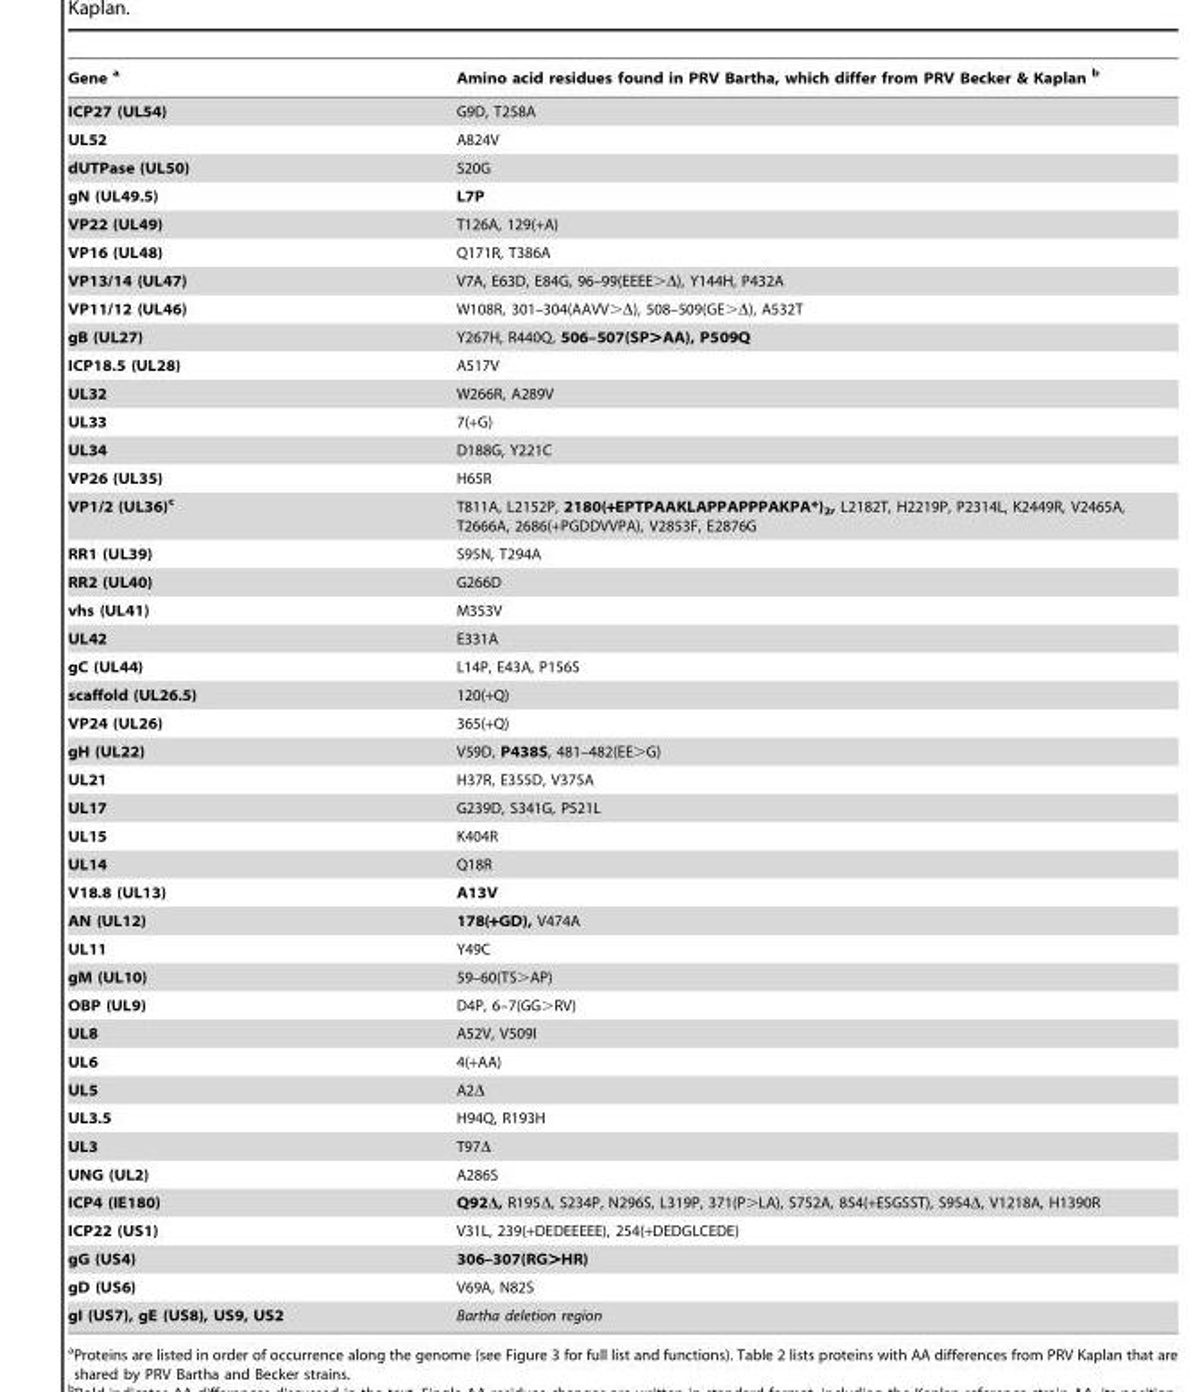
<table><thead><tr><td>Gene a</td><td>Amino acid residues found in PRV Bartha, which differ from PRV Becker &amp; Kaplan b</td></tr></thead><tbody><tr><td>ICP27 (UL54)</td><td>G9D, T258A</td></tr><tr><td>UL52</td><td>A824V</td></tr><tr><td>dUTPase (UL50)</td><td>S20G</td></tr><tr><td>gN (UL49.5)</td><td>L7P</td></tr><tr><td>VP22 (UL49)</td><td>T126A, 129(+A)</td></tr><tr><td>VP16 (UL48)</td><td>Q171R, T386A</td></tr><tr><td>VP13/14 (UL47)</td><td>V7A, E63D, E84G, 96–99(EEEE&gt;Δ), Y144H, P432A</td></tr><tr><td>VP11/12 (UL46)</td><td>W108R, 301–304(AAVV&gt;Δ), 508–509(GE&gt;Δ), A532T</td></tr><tr><td>gB (UL27)</td><td>Y267H, R440Q, 506–507(SP&gt;AA), P509Q</td></tr><tr><td>ICP18.5 (UL28)</td><td>A517V</td></tr><tr><td>UL32</td><td>W266R, A289V</td></tr><tr><td>UL33</td><td>7(+G)</td></tr><tr><td>UL34</td><td>D188G, Y221C</td></tr><tr><td>VP26 (UL35)</td><td>H65R</td></tr><tr><td>VP1/2 (UL36)c</td><td>T811A, L2152P, 2180(+EPTPAAKLAPPAPPPAKPA*)<sub>2</sub>, L2182T, H2219P, P2314L, K2449R, V2465A, T2666A, 2686(+PGDDVVPA), V2853F, E2876G</td></tr><tr><td>RR1 (UL39)</td><td>S95N, T294A</td></tr><tr><td>RR2 (UL40)</td><td>G266D</td></tr><tr><td>vhs (UL41)</td><td>M353V</td></tr><tr><td>UL42</td><td>E331A</td></tr><tr><td>gC (UL44)</td><td>L14P, E43A, P156S</td></tr><tr><td>scaffold (UL26.5)</td><td>120(+Q)</td></tr><tr><td>VP24 (UL26)</td><td>365(+Q)</td></tr><tr><td>gH (UL22)</td><td>V59D, P438S, 481–482(EE&gt;G)</td></tr><tr><td>UL21</td><td>H37R, E355D, V375A</td></tr><tr><td>UL17</td><td>G239D, S341G, P521L</td></tr><tr><td>UL15</td><td>K404R</td></tr><tr><td>UL14</td><td>Q18R</td></tr><tr><td>V18.8 (UL13)</td><td>A13V</td></tr><tr><td>AN (UL12)</td><td>178(+GD), V474A</td></tr><tr><td>UL11</td><td>Y49C</td></tr><tr><td>gM (UL10)</td><td>59–60(TS&gt;AP)</td></tr><tr><td>OBP (UL9)</td><td>D4P, 6–7(GG&gt;RV)</td></tr><tr><td>UL8</td><td>A52V, V509I</td></tr><tr><td>UL6</td><td>4(+AA)</td></tr><tr><td>UL5</td><td>A2Δ</td></tr><tr><td>UL3.5</td><td>H94Q, R193H</td></tr><tr><td>UL3</td><td>T97Δ</td></tr><tr><td>UNG (UL2)</td><td>A286S</td></tr><tr><td>ICP4 (IE180)</td><td>Q92Δ, R195Δ, S234P, N296S, L319P, 371(P&gt;LA), S752A, 854(+ESGSST), S954Δ, V1218A, H1390R</td></tr><tr><td>ICP22 (US1)</td><td>V31L, 239(+DEDEEEEE), 254(+DEDGLCEDE)</td></tr><tr><td>gG (US4)</td><td>306–307(RG&gt;HR)</td></tr><tr><td>gD (US6)</td><td>V69A, N82S</td></tr><tr><td>gI (US7), gE (US8), US9, US2</td><td>Bartha deletion region</td></tr></tbody></table>